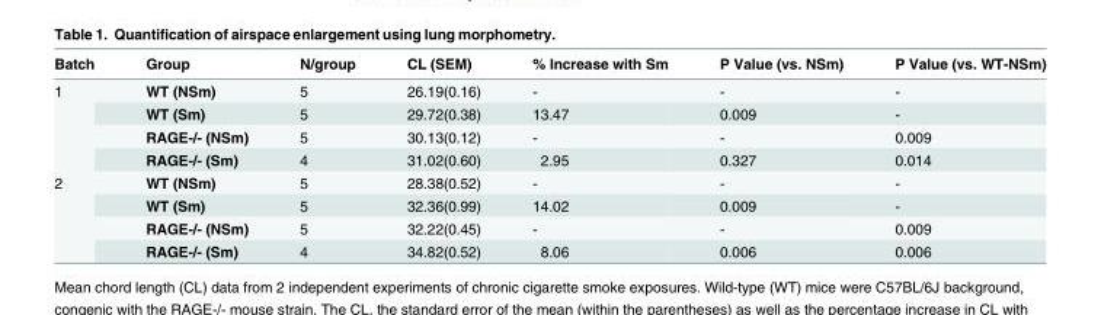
<table><thead><tr><td>Batch</td><td>Group</td><td>N/group</td><td>CL (SEM)</td><td>% Increase with Sm</td><td>P Value (vs. NSm)</td><td>P Value (vs. WT-NSm)</td></tr></thead><tbody><tr><td rowspan="4">1</td><td>WT (NSm)</td><td>5</td><td>26.19(0.16)</td><td>-</td><td>-</td><td>-</td></tr><tr><td>WT (Sm)</td><td>5</td><td>29.72(0.38)</td><td>13.47</td><td>0.009</td><td>-</td></tr><tr><td>RAGE-/- (NSm)</td><td>5</td><td>30.13(0.12)</td><td>-</td><td>-</td><td>0.009</td></tr><tr><td>RAGE-/- (Sm)</td><td>4</td><td>31.02(0.60)</td><td>2.95</td><td>0.327</td><td>0.014</td></tr><tr><td rowspan="4">2</td><td>WT (NSm)</td><td>5</td><td>28.38(0.52)</td><td>-</td><td>-</td><td>-</td></tr><tr><td>WT (Sm)</td><td>5</td><td>32.36(0.99)</td><td>14.02</td><td>0.009</td><td>-</td></tr><tr><td>RAGE-/- (NSm)</td><td>5</td><td>32.22(0.45)</td><td>-</td><td>-</td><td>0.009</td></tr><tr><td>RAGE-/- (Sm)</td><td>4</td><td>34.82(0.52)</td><td>8.06</td><td>0.006</td><td>0.006</td></tr></tbody></table>